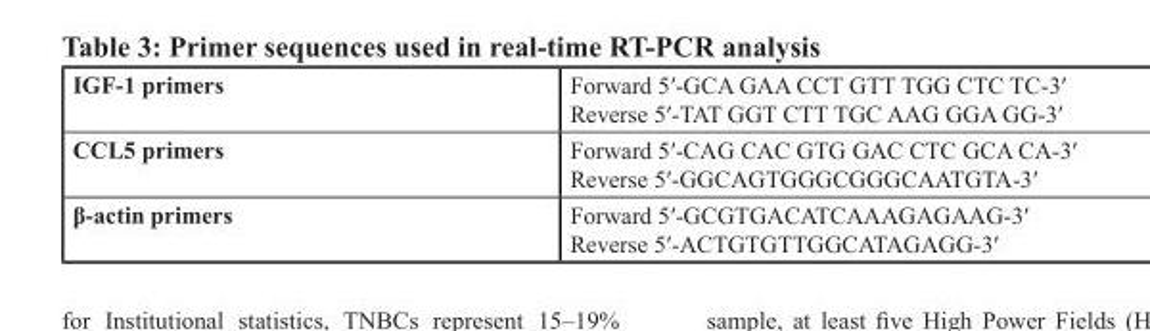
<table><tbody><tr><td>IGF-1 primers</td><td>Forward 5′-GCA GAA CCT GTT TGG CTC TC-3′ Reverse 5′-TAT GGT CTT TGC AAG GGA GG-3′</td></tr><tr><td>CCL5 primers</td><td>Forward 5′-CAG CAC GTG GAC CTC GCA CA-3′ Reverse 5′-GGCAGTGGGCGGGCAATGTA-3′</td></tr><tr><td>β-actin primers</td><td>Forward 5′-GCGTGACATCAAAGAGAAG-3′ Reverse 5′-ACTGTGTTGGCATAGAGG-3′</td></tr></tbody></table>